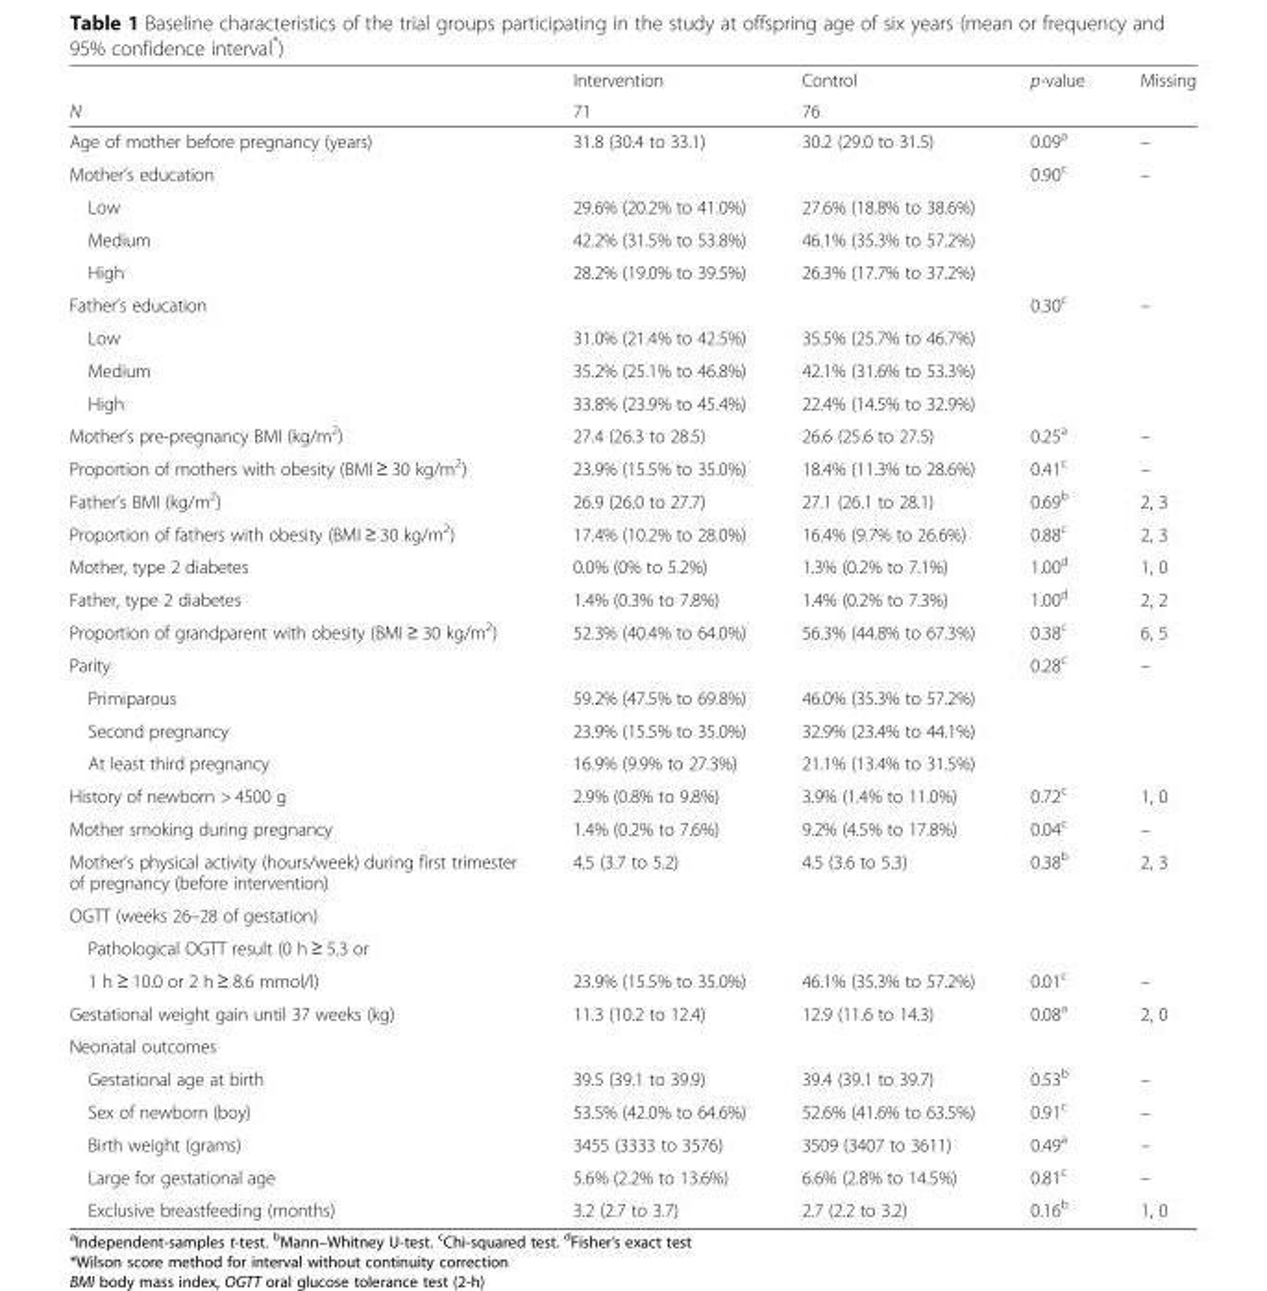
<table><thead><tr><td rowspan="2">N</td><td rowspan="2">Intervention 71</td><td rowspan="2">Control 76</td><td rowspan="2">p-value</td><td rowspan="2">Missing</td></tr><tr></tr></thead><tbody><tr><td>Age of mother before pregnancy (years)</td><td>31.8 (30.4 to 33.1)</td><td>30.2 (29.0 to 31.5)</td><td>0.09<sup>a</sup></td><td>–</td></tr><tr><td>Mother’s education</td><td></td><td></td><td>0.90<sup>c</sup></td><td>–</td></tr><tr><td>Low</td><td>29.6% (20.2% to 41.0%)</td><td>27.6% (18.8% to 38.6%)</td><td></td><td></td></tr><tr><td>Medium</td><td>42.2% (31.5% to 53.8%)</td><td>46.1% (35.3% to 57.2%)</td><td></td><td></td></tr><tr><td>High</td><td>28.2% (19.0% to 39.5%)</td><td>26.3% (17.7% to 37.2%)</td><td></td><td></td></tr><tr><td>Father’s education</td><td></td><td></td><td>0.30<sup>c</sup></td><td>–</td></tr><tr><td>Low</td><td>31.0% (21.4% to 42.5%)</td><td>35.5% (25.7% to 46.7%)</td><td></td><td></td></tr><tr><td>Medium</td><td>35.2% (25.1% to 46.8%)</td><td>42.1% (31.6% to 53.3%)</td><td></td><td></td></tr><tr><td>High</td><td>33.8% (23.9% to 45.4%)</td><td>22.4% (14.5% to 32.9%)</td><td></td><td></td></tr><tr><td>Mother’s pre-pregnancy BMI (kg/m<sup>2</sup>)</td><td>27.4 (26.3 to 28.5)</td><td>26.6 (25.6 to 27.5)</td><td>0.25<sup>a</sup></td><td>–</td></tr><tr><td>Proportion of mothers with obesity (BMI ≥ 30 kg/m<sup>2</sup>)</td><td>23.9% (15.5% to 35.0%)</td><td>18.4% (11.3% to 28.6%)</td><td>0.41<sup>c</sup></td><td>–</td></tr><tr><td>Father’s BMI (kg/m<sup>2</sup>)</td><td>26.9 (26.0 to 27.7)</td><td>27.1 (26.1 to 28.1)</td><td>0.69<sup>b</sup></td><td>2, 3</td></tr><tr><td>Proportion of fathers with obesity (BMI ≥ 30 kg/m<sup>2</sup>)</td><td>17.4% (10.2% to 28.0%)</td><td>16.4% (9.7% to 26.6%)</td><td>0.88<sup>c</sup></td><td>2, 3</td></tr><tr><td>Mother, type 2 diabetes</td><td>0.0% (0% to 5.2%)</td><td>1.3% (0.2% to 7.1%)</td><td>1.00<sup>d</sup></td><td>1, 0</td></tr><tr><td>Father, type 2 diabetes</td><td>1.4% (0.3% to 7.8%)</td><td>1.4% (0.2% to 7.3%)</td><td>1.00<sup>d</sup></td><td>2, 2</td></tr><tr><td>Proportion of grandparent with obesity (BMI ≥ 30 kg/m<sup>2</sup>)</td><td>52.3% (40.4% to 64.0%)</td><td>56.3% (44.8% to 67.3%)</td><td>0.38<sup>c</sup></td><td>6, 5</td></tr><tr><td>Parity</td><td></td><td></td><td>0.28<sup>c</sup></td><td>–</td></tr><tr><td>Primiparous</td><td>59.2% (47.5% to 69.8%)</td><td>46.0% (35.3% to 57.2%)</td><td></td><td></td></tr><tr><td>Second pregnancy</td><td>23.9% (15.5% to 35.0%)</td><td>32.9% (23.4% to 44.1%)</td><td></td><td></td></tr><tr><td>At least third pregnancy</td><td>16.9% (9.9% to 27.3%)</td><td>21.1% (13.4% to 31.5%)</td><td></td><td></td></tr><tr><td>History of newborn &gt; 4500 g</td><td>2.9% (0.8% to 9.8%)</td><td>3.9% (1.4% to 11.0%)</td><td>0.72<sup>c</sup></td><td>1, 0</td></tr><tr><td>Mother smoking during pregnancy</td><td>1.4% (0.2% to 7.6%)</td><td>9.2% (4.5% to 17.8%)</td><td>0.04<sup>c</sup></td><td>–</td></tr><tr><td>Mother’s physical activity (hours/week) during first trimester of pregnancy (before intervention)</td><td>4.5 (3.7 to 5.2)</td><td>4.5 (3.6 to 5.3)</td><td>0.38<sup>b</sup></td><td>2, 3</td></tr><tr><td colspan="5">OGTT (weeks 26–28 of gestation)</td></tr><tr><td colspan="5">Pathological OGTT result (0 h ≥ 5.3 or</td></tr><tr><td>1 h ≥ 10.0 or 2 h ≥ 8.6 mmol/l)</td><td>23.9% (15.5% to 35.0%)</td><td>46.1% (35.3% to 57.2%)</td><td>0.01<sup>c</sup></td><td>–</td></tr><tr><td>Gestational weight gain until 37 weeks (kg)</td><td>11.3 (10.2 to 12.4)</td><td>12.9 (11.6 to 14.3)</td><td>0.08<sup>a</sup></td><td>2, 0</td></tr><tr><td colspan="5">Neonatal outcomes</td></tr><tr><td>Gestational age at birth</td><td>39.5 (39.1 to 39.9)</td><td>39.4 (39.1 to 39.7)</td><td>0.53<sup>b</sup></td><td>–</td></tr><tr><td>Sex of newborn (boy)</td><td>53.5% (42.0% to 64.6%)</td><td>52.6% (41.6% to 63.5%)</td><td>0.91<sup>c</sup></td><td>–</td></tr><tr><td>Birth weight (grams)</td><td>3455 (3333 to 3576)</td><td>3509 (3407 to 3611)</td><td>0.49<sup>a</sup></td><td>–</td></tr><tr><td>Large for gestational age</td><td>5.6% (2.2% to 13.6%)</td><td>6.6% (2.8% to 14.5%)</td><td>0.81<sup>c</sup></td><td>–</td></tr><tr><td>Exclusive breastfeeding (months)</td><td>3.2 (2.7 to 3.7)</td><td>2.7 (2.2 to 3.2)</td><td>0.16<sup>b</sup></td><td>1, 0</td></tr></tbody></table>